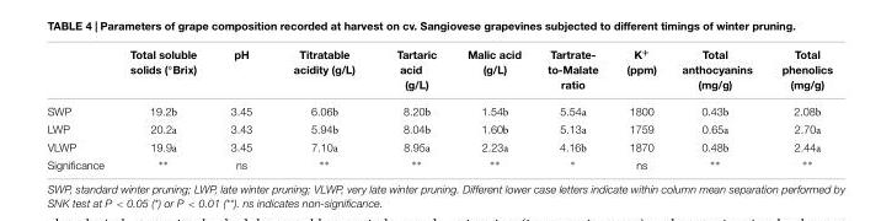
<table><thead><tr><td></td><td>Total soluble solids (◦Brix)</td><td>pH</td><td>Titratable acidity (g/L)</td><td>Tartaric acid (g/L)</td><td>Malic acid (g/L)</td><td>Tartrate- to-Malate ratio</td><td>K<sup>+</sup> (ppm)</td><td>Total anthocyanins (mg/g)</td><td>Total phenolics (mg/g)</td></tr></thead><tbody><tr><td>SWP</td><td>19.2b</td><td>3.45</td><td>6.06b</td><td>8.20b</td><td>1.54b</td><td>5.54a</td><td>1800</td><td>0.43b</td><td>2.08b</td></tr><tr><td>LWP</td><td>20.2a</td><td>3.43</td><td>5.94b</td><td>8.04b</td><td>1.60b</td><td>5.13a</td><td>1759</td><td>0.65a</td><td>2.70a</td></tr><tr><td>VLWP</td><td>19.9a</td><td>3.45</td><td>7.10a</td><td>8.95a</td><td>2.23a</td><td>4.16b</td><td>1870</td><td>0.48b</td><td>2.44a</td></tr><tr><td>Significance</td><td>∗∗</td><td>ns</td><td>∗∗</td><td>∗∗</td><td>∗∗</td><td>∗</td><td>ns</td><td>∗∗</td><td>∗∗</td></tr></tbody></table>